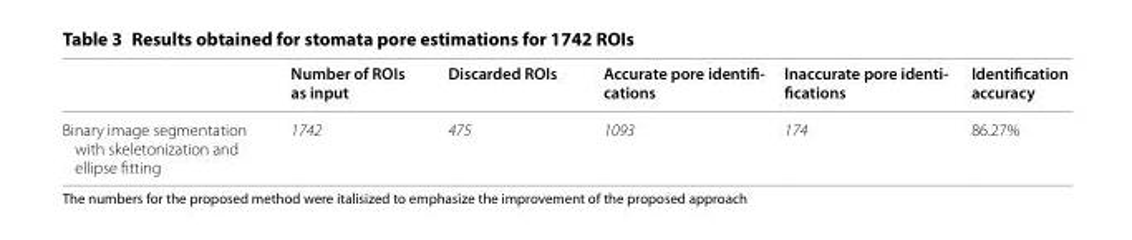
<table><thead><tr><td></td><td>Number of ROIs as input</td><td>Discarded ROIs</td><td>Accurate pore identifi- cations</td><td>Inaccurate pore identi- fications</td><td>Identification accuracy</td></tr></thead><tbody><tr><td>Binary image segmentation with skeletonization and ellipse fitting</td><td>1742</td><td>475</td><td>1093</td><td>174</td><td>86.27%</td></tr></tbody></table>